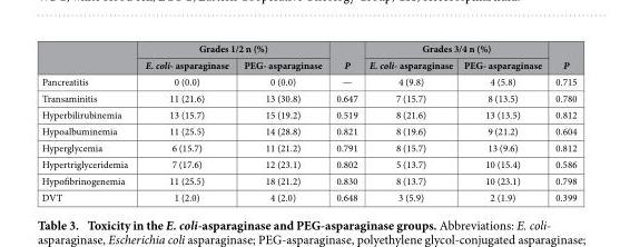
<table><thead><tr><td rowspan="2"></td><td colspan="2">Grades 1/2 n (%)</td><td rowspan="2">P</td><td colspan="2">Grades 3/4 n (%)</td><td rowspan="2">P</td></tr><tr><td>E. coli- asparaginase</td><td>PEG- asparaginase</td><td>E. coli- asparaginase</td><td>PEG- asparaginase</td></tr></thead><tbody><tr><td>Pancreatitis</td><td>0 (0.0)</td><td>0 (0.0)</td><td>—</td><td>4 (9.8)</td><td>4 (5.8)</td><td>0.715</td></tr><tr><td>Transaminitis</td><td>11 (21.6)</td><td>13 (30.8)</td><td>0.647</td><td>7 (15.7)</td><td>8 (13.5)</td><td>0.780</td></tr><tr><td>Hyperbilirubinemia</td><td>13 (15.7)</td><td>15 (19.2)</td><td>0.519</td><td>8 (21.6)</td><td>13 (13.5)</td><td>0.812</td></tr><tr><td>Hypoalbuminemia</td><td>11 (25.5)</td><td>14 (28.8)</td><td>0.821</td><td>8 (19.6)</td><td>9 (21.2)</td><td>0.604</td></tr><tr><td>Hyperglycemia</td><td>6 (15.7)</td><td>11 (21.2)</td><td>0.791</td><td>8 (15.7)</td><td>13 (9.6)</td><td>0.812</td></tr><tr><td>Hypertriglyceridemia</td><td>7 (17.6)</td><td>12 (23.1)</td><td>0.802</td><td>5 (13.7)</td><td>10 (15.4)</td><td>0.586</td></tr><tr><td>Hypofibrinogenemia</td><td>11 (25.5)</td><td>18 (21.2)</td><td>0.830</td><td>8 (13.7)</td><td>10 (23.1)</td><td>0.798</td></tr><tr><td>DVT</td><td>1 (2.0)</td><td>4 (2.0)</td><td>0.648</td><td>3 (5.9)</td><td>2 (1.9)</td><td>0.399</td></tr></tbody></table>